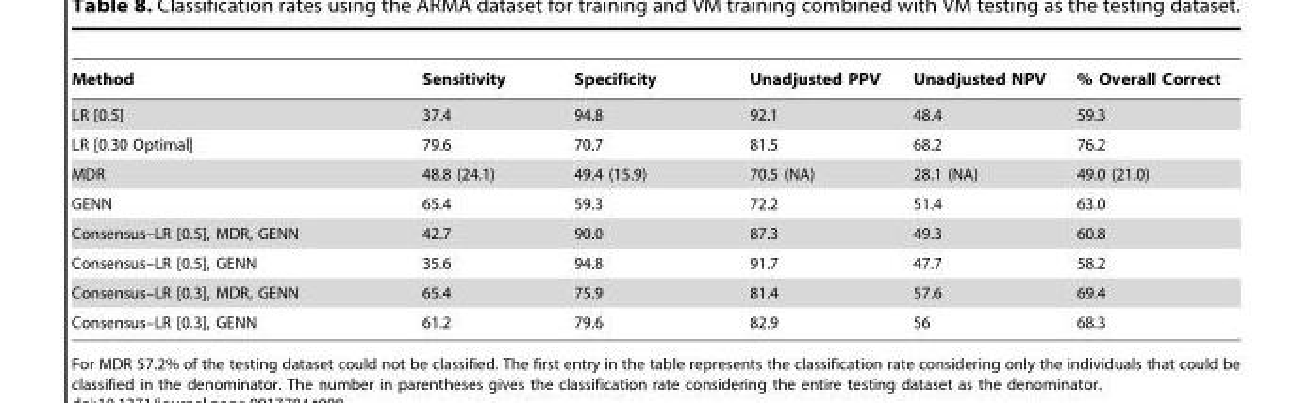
<table><thead><tr><td>Method</td><td>Sensitivity</td><td>Specificity</td><td>Unadjusted PPV</td><td>Unadjusted NPV</td><td>% Overall Correct</td></tr></thead><tbody><tr><td>LR [0.5]</td><td>37.4</td><td>94.8</td><td>92.1</td><td>48.4</td><td>59.3</td></tr><tr><td>LR [0.30 Optimal]</td><td>79.6</td><td>70.7</td><td>81.5</td><td>68.2</td><td>76.2</td></tr><tr><td>MDR</td><td>48.8 (24.1)</td><td>49.4 (15.9)</td><td>70.5 (NA)</td><td>28.1 (NA)</td><td>49.0 (21.0)</td></tr><tr><td>GENN</td><td>65.4</td><td>59.3</td><td>72.2</td><td>51.4</td><td>63.0</td></tr><tr><td>Consensus–LR [0.5], MDR, GENN</td><td>42.7</td><td>90.0</td><td>87.3</td><td>49.3</td><td>60.8</td></tr><tr><td>Consensus–LR [0.5], GENN</td><td>35.6</td><td>94.8</td><td>91.7</td><td>47.7</td><td>58.2</td></tr><tr><td>Consensus–LR [0.3], MDR, GENN</td><td>65.4</td><td>75.9</td><td>81.4</td><td>57.6</td><td>69.4</td></tr><tr><td>Consensus–LR [0.3], GENN</td><td>61.2</td><td>79.6</td><td>82.9</td><td>56</td><td>68.3</td></tr></tbody></table>